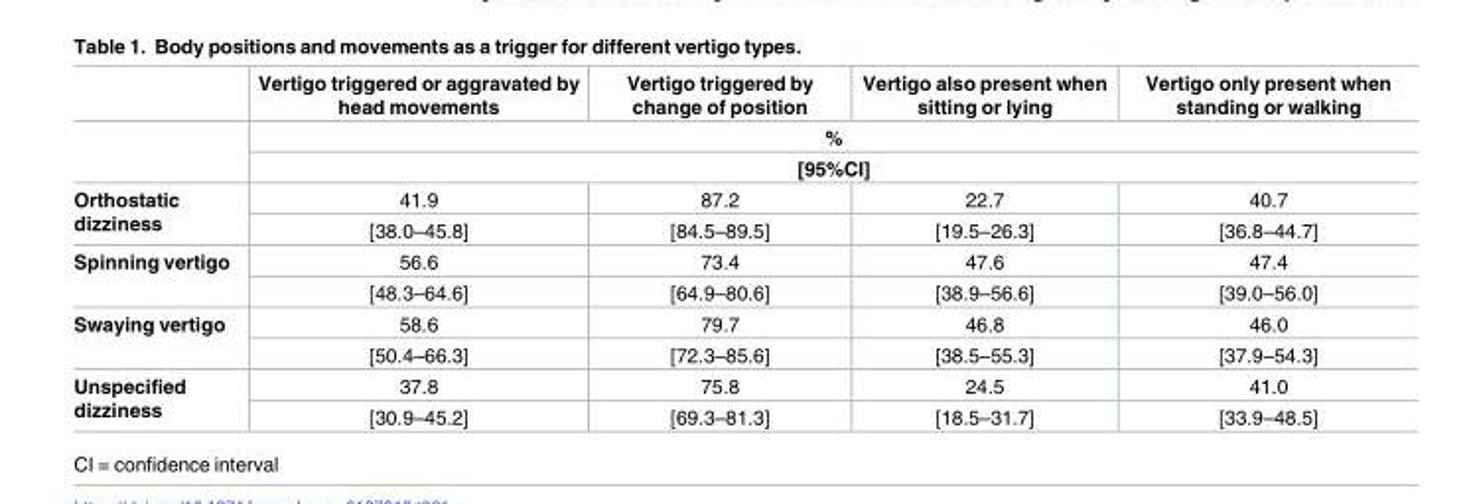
<table><thead><tr><td rowspan="3"></td><td>Vertigo triggered or aggravated by head movements</td><td>Vertigo triggered by change of position</td><td>Vertigo also present when sitting or lying</td><td>Vertigo only present when standing or walking</td></tr><tr><td rowspan="2" colspan="4">% [95%CI]</td></tr><tr></tr></thead><tbody><tr><td rowspan="2">Orthostatic dizziness</td><td>41.9</td><td>87.2</td><td>22.7</td><td>40.7</td></tr><tr><td>[38.0–45.8]</td><td>[84.5–89.5]</td><td>[19.5–26.3]</td><td>[36.8–44.7]</td></tr><tr><td rowspan="2">Spinning vertigo</td><td>56.6</td><td>73.4</td><td>47.6</td><td>47.4</td></tr><tr><td>[48.3–64.6]</td><td>[64.9–80.6]</td><td>[38.9–56.6]</td><td>[39.0–56.0]</td></tr><tr><td rowspan="2">Swaying vertigo</td><td>58.6</td><td>79.7</td><td>46.8</td><td>46.0</td></tr><tr><td>[50.4–66.3]</td><td>[72.3–85.6]</td><td>[38.5–55.3]</td><td>[37.9–54.3]</td></tr><tr><td rowspan="2">Unspecified dizziness</td><td>37.8</td><td>75.8</td><td>24.5</td><td>41.0</td></tr><tr><td>[30.9–45.2]</td><td>[69.3–81.3]</td><td>[18.5–31.7]</td><td>[33.9–48.5]</td></tr></tbody></table>